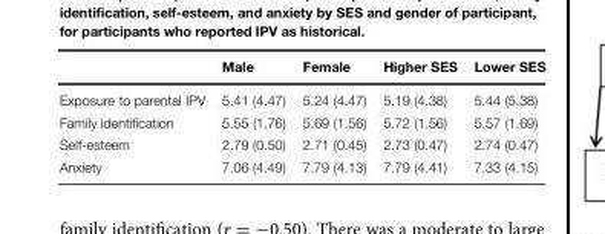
<table><thead><tr><td></td><td>Male</td><td>Female</td><td>Higher SES</td><td>Lower SES</td></tr></thead><tbody><tr><td>Exposure to parental IPV</td><td>5.41 (4.47)</td><td>5.24 (4.47)</td><td>5.19 (4.38)</td><td>5.44 (5.38)</td></tr><tr><td>Family identification</td><td>5.55 (1.76)</td><td>5.69 (1.56)</td><td>5.72 (1.56)</td><td>5.57 (1.69)</td></tr><tr><td>Self-esteem</td><td>2.79 (0.50)</td><td>2.71 (0.45)</td><td>2.73 (0.47)</td><td>2.74 (0.47)</td></tr><tr><td>Anxiety</td><td>7.06 (4.49)</td><td>7.79 (4.13)</td><td>7.79 (4.41)</td><td>7.33 (4.15)</td></tr></tbody></table>